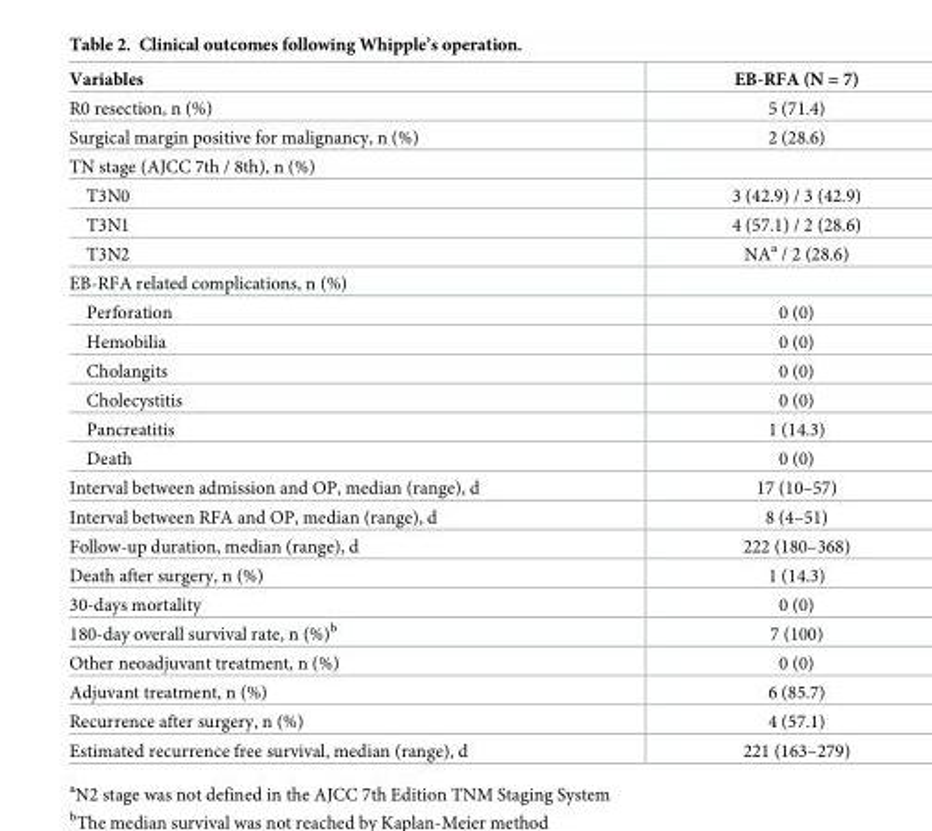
<table><thead><tr><td>Variables</td><td>EB-RFA (N = 7)</td></tr></thead><tbody><tr><td>R0 resection, n (%)</td><td>5 (71.4)</td></tr><tr><td>Surgical margin positive for malignancy, n (%)</td><td>2 (28.6)</td></tr><tr><td colspan="2">TN stage (AJCC 7th / 8th), n (%)</td></tr><tr><td>T3N0</td><td>3 (42.9) / 3 (42.9)</td></tr><tr><td>T3N1</td><td>4 (57.1) / 2 (28.6)</td></tr><tr><td>T3N2</td><td>NA<sup>a</sup> / 2 (28.6)</td></tr><tr><td colspan="2">EB-RFA related complications, n (%)</td></tr><tr><td>Perforation</td><td>0 (0)</td></tr><tr><td>Hemobilia</td><td>0 (0)</td></tr><tr><td>Cholangits</td><td>0 (0)</td></tr><tr><td>Cholecystitis</td><td>0 (0)</td></tr><tr><td>Pancreatitis</td><td>1 (14.3)</td></tr><tr><td>Death</td><td>0 (0)</td></tr><tr><td>Interval between admission and OP, median (range), d</td><td>17 (10–57)</td></tr><tr><td>Interval between RFA and OP, median (range), d</td><td>8 (4–51)</td></tr><tr><td>Follow-up duration, median (range), d</td><td>222 (180–368)</td></tr><tr><td>Death after surgery, n (%)</td><td>1 (14.3)</td></tr><tr><td>30-days mortality</td><td>0 (0)</td></tr><tr><td>180-day overall survival rate, n (%)<sup>b</sup></td><td>7 (100)</td></tr><tr><td>Other neoadjuvant treatment, n (%)</td><td>0 (0)</td></tr><tr><td>Adjuvant treatment, n (%)</td><td>6 (85.7)</td></tr><tr><td>Recurrence after surgery, n (%)</td><td>4 (57.1)</td></tr><tr><td>Estimated recurrence free survival, median (range), d</td><td>221 (163–279)</td></tr></tbody></table>